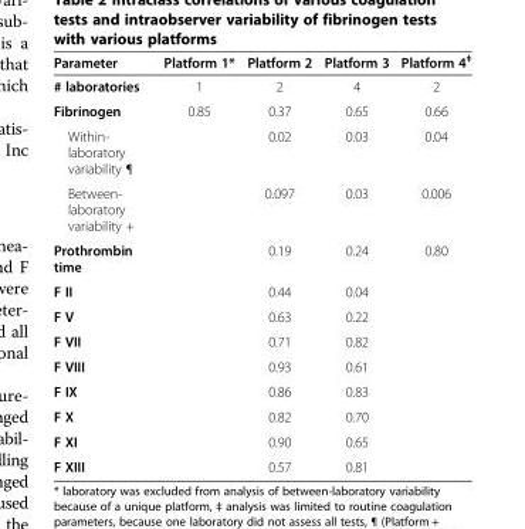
<table><thead><tr><td>Parameter</td><td>Platform 1*</td><td>Platform 2</td><td>Platform 3</td><td>Platform 4<sup>‡</sup></td></tr></thead><tbody><tr><td># laboratories</td><td>1</td><td>2</td><td>4</td><td>2</td></tr><tr><td>Fibrinogen</td><td>0.85</td><td>0.37</td><td>0.65</td><td>0.66</td></tr><tr><td>Within- laboratory variability ¶</td><td></td><td>0.02</td><td>0.03</td><td>0.04</td></tr><tr><td>Between- laboratory variability +</td><td></td><td>0.097</td><td>0.03</td><td>0.006</td></tr><tr><td>Prothrombin time</td><td></td><td>0.19</td><td>0.24</td><td>0.80</td></tr><tr><td>F II</td><td></td><td>0.44</td><td>0.04</td><td></td></tr><tr><td>F V</td><td></td><td>0.63</td><td>0.22</td><td></td></tr><tr><td>F VII</td><td></td><td>0.71</td><td>0.82</td><td></td></tr><tr><td>F VIII</td><td></td><td>0.93</td><td>0.61</td><td></td></tr><tr><td>F IX</td><td></td><td>0.86</td><td>0.83</td><td></td></tr><tr><td>F X</td><td></td><td>0.82</td><td>0.70</td><td></td></tr><tr><td>F XI</td><td></td><td>0.90</td><td>0.65</td><td></td></tr><tr><td>F XIII</td><td></td><td>0.57</td><td>0.81</td><td></td></tr></tbody></table>